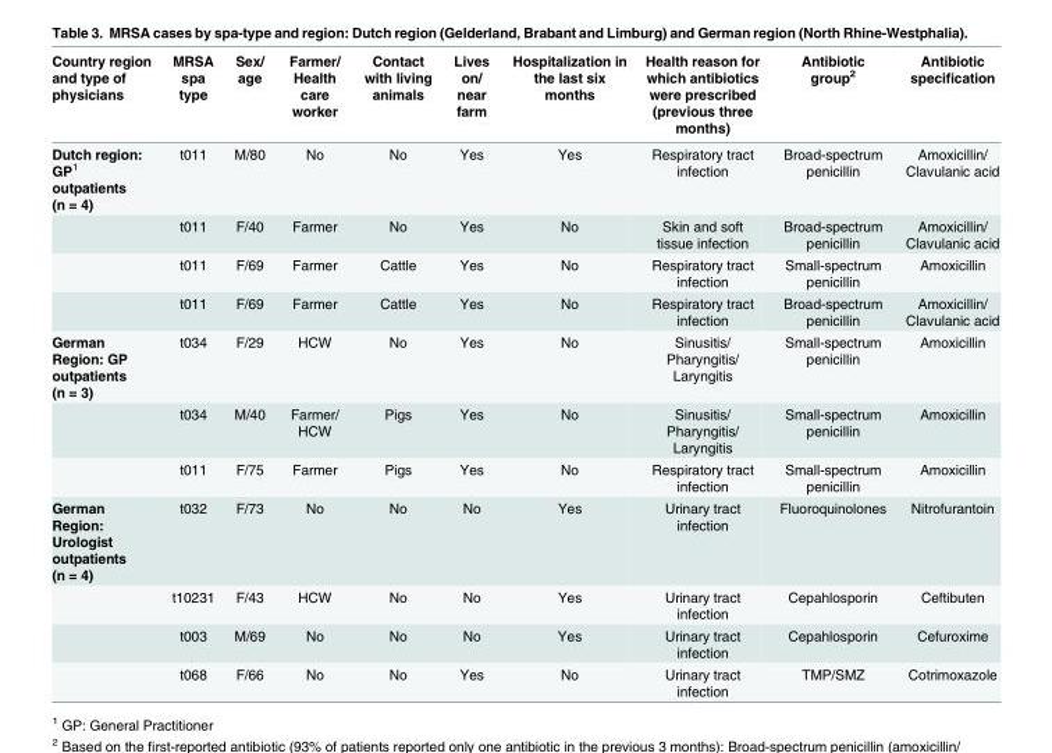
<table><thead><tr><td>Country region and type of physicians</td><td>MRSA spa type</td><td>Sex/ age</td><td>Farmer/ Health care worker</td><td>Contact with living animals</td><td>Lives on/ near farm</td><td>Hospitalization in the last six months</td><td>Health reason for which antibiotics were prescribed (previous three months)</td><td>Antibiotic group<sup>2</sup></td><td>Antibiotic specification</td></tr></thead><tbody><tr><td rowspan="4">Dutch region: GP<sup>1</sup> outpatients (n = 4)</td><td>t011</td><td>M/80</td><td>No</td><td>No</td><td>Yes</td><td>Yes</td><td>Respiratory tract infection</td><td>Broad-spectrum penicillin</td><td>Amoxicillin/ Clavulanic acid</td></tr><tr><td>t011</td><td>F/40</td><td>Farmer</td><td>No</td><td>Yes</td><td>No</td><td>Skin and soft tissue infection</td><td>Broad-spectrum penicillin</td><td>Amoxicillin/ Clavulanic acid</td></tr><tr><td>t011</td><td>F/69</td><td>Farmer</td><td>Cattle</td><td>Yes</td><td>No</td><td>Respiratory tract infection</td><td>Small-spectrum penicillin</td><td>Amoxicillin</td></tr><tr><td>t011</td><td>F/69</td><td>Farmer</td><td>Cattle</td><td>Yes</td><td>No</td><td>Respiratory tract infection</td><td>Broad-spectrum penicillin</td><td>Amoxicillin/ Clavulanic acid</td></tr><tr><td rowspan="3">German Region: GP outpatients (n = 3)</td><td>t034</td><td>F/29</td><td>HCW</td><td>No</td><td>Yes</td><td>No</td><td>Sinusitis/ Pharyngitis/ Laryngitis</td><td>Small-spectrum penicillin</td><td>Amoxicillin</td></tr><tr><td>t034</td><td>M/40</td><td>Farmer/ HCW</td><td>Pigs</td><td>Yes</td><td>No</td><td>Sinusitis/ Pharyngitis/ Laryngitis</td><td>Small-spectrum penicillin</td><td>Amoxicillin</td></tr><tr><td>t011</td><td>F/75</td><td>Farmer</td><td>Pigs</td><td>Yes</td><td>No</td><td>Respiratory tract infection</td><td>Small-spectrum penicillin</td><td>Amoxicillin</td></tr><tr><td rowspan="4">German Region: Urologist outpatients (n = 4)</td><td>t032</td><td>F/73</td><td>No</td><td>No</td><td>No</td><td>Yes</td><td>Urinary tract infection</td><td>Fluoroquinolones</td><td>Nitrofurantoin</td></tr><tr><td>t10231</td><td>F/43</td><td>HCW</td><td>No</td><td>No</td><td>Yes</td><td>Urinary tract infection</td><td>Cepahlosporin</td><td>Ceftibuten</td></tr><tr><td>t003</td><td>M/69</td><td>No</td><td>No</td><td>No</td><td>Yes</td><td>Urinary tract infection</td><td>Cepahlosporin</td><td>Cefuroxime</td></tr><tr><td>t068</td><td>F/66</td><td>No</td><td>No</td><td>Yes</td><td>No</td><td>Urinary tract infection</td><td>TMP/SMZ</td><td>Cotrimoxazole</td></tr></tbody></table>